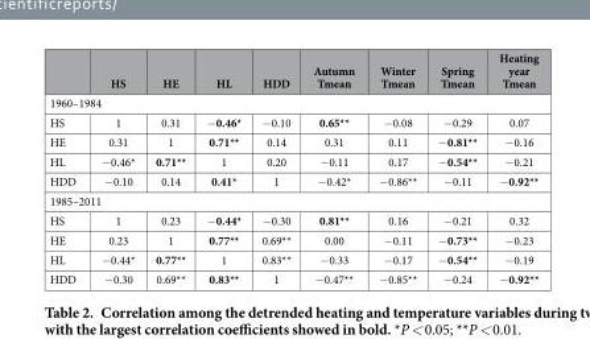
<table><thead><tr><td></td><td>HS</td><td>HE</td><td>HL</td><td>HDD</td><td>Autumn Tmean</td><td>Winter Tmean</td><td>Spring Tmean</td><td>Heating year Tmean</td></tr></thead><tbody><tr><td colspan="9">1960–1984</td></tr><tr><td>HS</td><td>1</td><td>0.31</td><td>− 0.46*</td><td>− 0.10</td><td>0.65**</td><td>− 0.08</td><td>− 0.29</td><td>0.07</td></tr><tr><td>HE</td><td>0.31</td><td>1</td><td>0.71**</td><td>0.14</td><td>0.31</td><td>0.11</td><td>− 0.81**</td><td>− 0.16</td></tr><tr><td>HL</td><td>− 0.46*</td><td>0.71**</td><td>1</td><td>0.20</td><td>− 0.11</td><td>0.17</td><td>− 0.54**</td><td>− 0.21</td></tr><tr><td>HDD</td><td>− 0.10</td><td>0.14</td><td>0.41*</td><td>1</td><td>− 0.42*</td><td>− 0.86**</td><td>− 0.11</td><td>− 0.92**</td></tr><tr><td colspan="9">1985–2011</td></tr><tr><td>HS</td><td>1</td><td>0.23</td><td>− 0.44*</td><td>− 0.30</td><td>0.81**</td><td>0.16</td><td>− 0.21</td><td>0.32</td></tr><tr><td>HE</td><td>0.23</td><td>1</td><td>0.77**</td><td>0.69**</td><td>0.00</td><td>− 0.11</td><td>− 0.73**</td><td>− 0.23</td></tr><tr><td>HL</td><td>− 0.44*</td><td>0.77**</td><td>1</td><td>0.83**</td><td>− 0.33</td><td>− 0.17</td><td>− 0.54**</td><td>− 0.19</td></tr><tr><td>HDD</td><td>− 0.30</td><td>0.69**</td><td>0.83**</td><td>1</td><td>− 0.47**</td><td>− 0.85**</td><td>− 0.24</td><td>− 0.92**</td></tr></tbody></table>